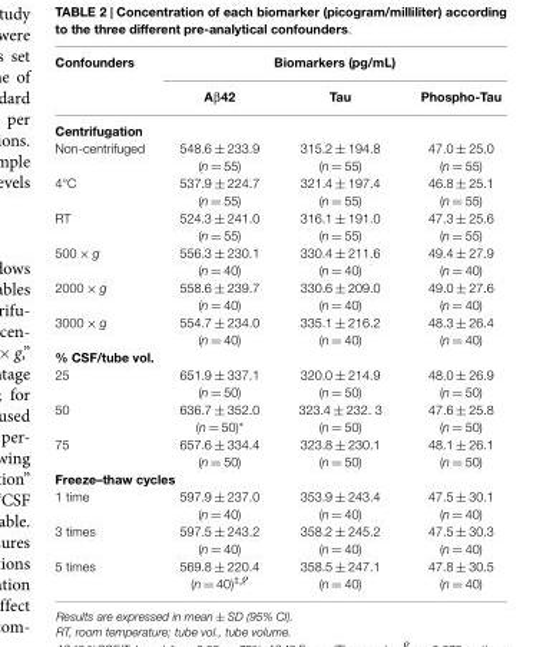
<table><thead><tr><td rowspan="2">Confounders</td><td colspan="3">Biomarkers (pg/mL)</td></tr><tr><td>Aβ42</td><td>Tau</td><td>Phospho-Tau</td></tr></thead><tbody><tr><td colspan="4">Centrifugation</td></tr><tr><td>Non-centrifuged</td><td>548.6 ± 233.9 (n = 55)</td><td>315.2 ± 194.8 (n = 55)</td><td>47.0 ± 25.0 (n = 55)</td></tr><tr><td>4°C</td><td>537.9 ± 224.7 (n = 55)</td><td>321.4 ± 197.4 (n = 55)</td><td>46.8 ± 25.1 (n = 55)</td></tr><tr><td>RT</td><td>524.3 ± 241.0 (n = 55)</td><td>316.1 ± 191.0 (n = 55)</td><td>47.3 ± 25.6 (n = 55)</td></tr><tr><td>500 × g</td><td>556.3 ± 230.1 (n = 40)</td><td>330.4 ± 211.6 (n = 40)</td><td>49.4 ± 27.9 (n = 40)</td></tr><tr><td>2000 × g</td><td>558.6 ± 239.7 (n = 40)</td><td>330.6 ± 209.0 (n = 40)</td><td>49.0 ± 27.6 (n = 40)</td></tr><tr><td>3000 × g</td><td>554.7 ± 234.0 (n = 40)</td><td>335.1 ± 216.2 (n = 40)</td><td>48.3 ± 26.4 (n = 40)</td></tr><tr><td colspan="4">% CSF/tube vol.</td></tr><tr><td>25</td><td>651.9 ± 337.1 (n = 50)</td><td>320.0 ± 214.9 (n = 50)</td><td>48.0 ± 26.9 (n = 50)</td></tr><tr><td>50</td><td>636.7 ± 352.0 (n = 50)*</td><td>323.4 ± 232. 3 (n = 50)</td><td>47.6 ± 25.8 (n = 50)</td></tr><tr><td>75</td><td>657.6 ± 334.4 (n = 50)</td><td>323.8 ± 230.1 (n = 50)</td><td>48.1 ± 26.1 (n = 50)</td></tr><tr><td colspan="4">Freeze–thaw cycles</td></tr><tr><td>1 time</td><td>597.9 ± 237.0 (n = 40)</td><td>353.9 ± 243.4 (n = 40)</td><td>47.5 ± 30.1 (n = 40)</td></tr><tr><td>3 times</td><td>597.5 ± 243.2 (n = 40)</td><td>358.2 ± 245.2 (n = 40)</td><td>47.5 ± 30.3 (n = 40)</td></tr><tr><td>5 times</td><td>569.8 ± 220.4 (n = 40)‡,</td><td>358.5 ± 247.1 (n = 40)</td><td>47.8 ± 30.5 (n = 40)</td></tr></tbody></table>